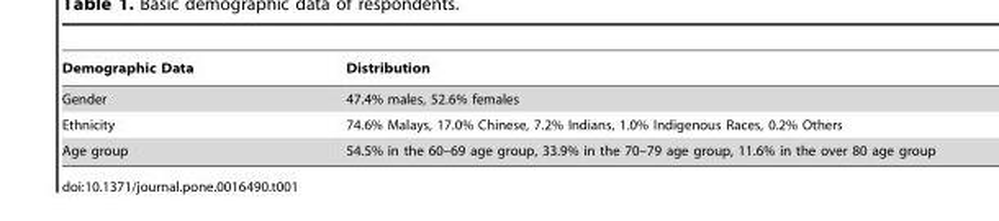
<table><thead><tr><td>Demographic Data</td><td>Distribution</td></tr></thead><tbody><tr><td>Gender</td><td>47.4% males, 52.6% females</td></tr><tr><td>Ethnicity</td><td>74.6% Malays, 17.0% Chinese, 7.2% Indians, 1.0% Indigenous Races, 0.2% Others</td></tr><tr><td>Age group</td><td>54.5% in the 60–69 age group, 33.9% in the 70–79 age group, 11.6% in the over 80 age group</td></tr></tbody></table>